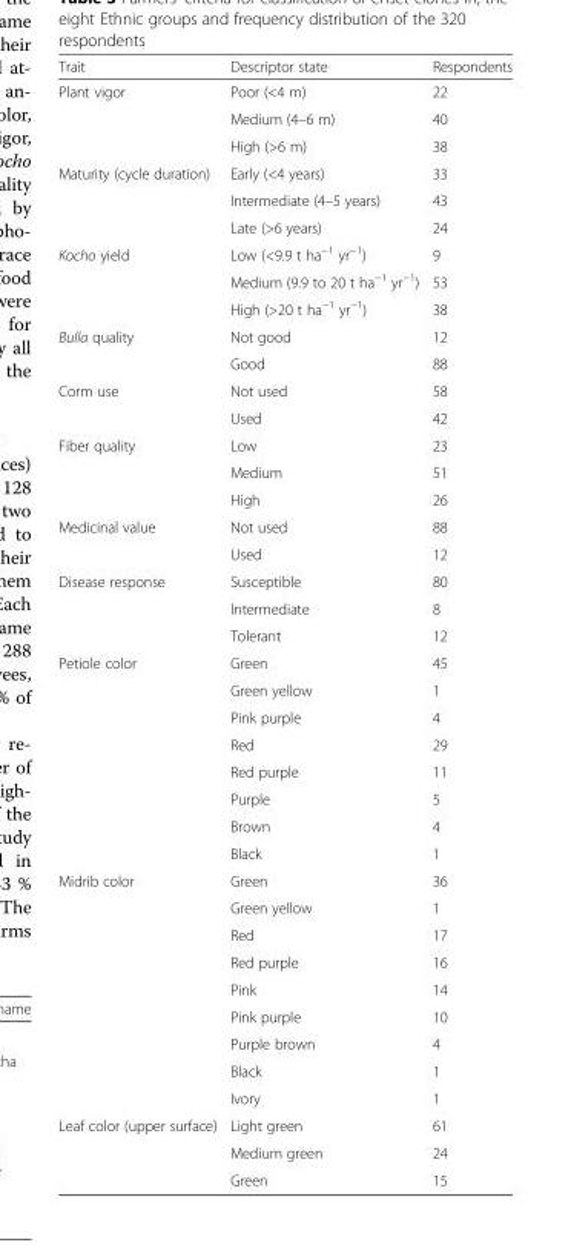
<table><thead><tr><td>Trait</td><td>Descriptor state</td><td>Respondents</td></tr></thead><tbody><tr><td rowspan="3">Plant vigor</td><td>Poor (&lt;4 m)</td><td>22</td></tr><tr><td>Medium (4–6 m)</td><td>40</td></tr><tr><td>High (&gt;6 m)</td><td>38</td></tr><tr><td rowspan="3">Maturity (cycle duration)</td><td>Early (&lt;4 years)</td><td>33</td></tr><tr><td>Intermediate (4–5 years)</td><td>43</td></tr><tr><td>Late (&gt;6 years)</td><td>24</td></tr><tr><td rowspan="3">Kocho yield</td><td>Low (&lt;9.9 t ha<sup>−1</sup> yr<sup>−1</sup>)</td><td>9</td></tr><tr><td>Medium (9.9 to 20 t ha<sup>−1</sup> yr<sup>−1</sup>)</td><td>53</td></tr><tr><td>High (&gt;20 t ha<sup>−1</sup> yr<sup>−1</sup>)</td><td>38</td></tr><tr><td rowspan="2">Bulla quality</td><td>Not good</td><td>12</td></tr><tr><td>Good</td><td>88</td></tr><tr><td rowspan="2">Corm use</td><td>Not used</td><td>58</td></tr><tr><td>Used</td><td>42</td></tr><tr><td rowspan="3">Fiber quality</td><td>Low</td><td>23</td></tr><tr><td>Medium</td><td>51</td></tr><tr><td>High</td><td>26</td></tr><tr><td rowspan="2">Medicinal value</td><td>Not used</td><td>88</td></tr><tr><td>Used</td><td>12</td></tr><tr><td rowspan="3">Disease response</td><td>Susceptible</td><td>80</td></tr><tr><td>Intermediate</td><td>8</td></tr><tr><td>Tolerant</td><td>12</td></tr><tr><td rowspan="8">Petiole color</td><td>Green</td><td>45</td></tr><tr><td>Green yellow</td><td>1</td></tr><tr><td>Pink purple</td><td>4</td></tr><tr><td>Red</td><td>29</td></tr><tr><td>Red purple</td><td>11</td></tr><tr><td>Purple</td><td>5</td></tr><tr><td>Brown</td><td>4</td></tr><tr><td>Black</td><td>1</td></tr><tr><td rowspan="9">Midrib color</td><td>Green</td><td>36</td></tr><tr><td>Green yellow</td><td>1</td></tr><tr><td>Red</td><td>17</td></tr><tr><td>Red purple</td><td>16</td></tr><tr><td>Pink</td><td>14</td></tr><tr><td>Pink purple</td><td>10</td></tr><tr><td>Purple brown</td><td>4</td></tr><tr><td>Black</td><td>1</td></tr><tr><td>Ivory</td><td>1</td></tr><tr><td rowspan="3">Leaf color (upper surface)</td><td>Light green</td><td>61</td></tr><tr><td>Medium green</td><td>24</td></tr><tr><td>Green</td><td>15</td></tr></tbody></table>